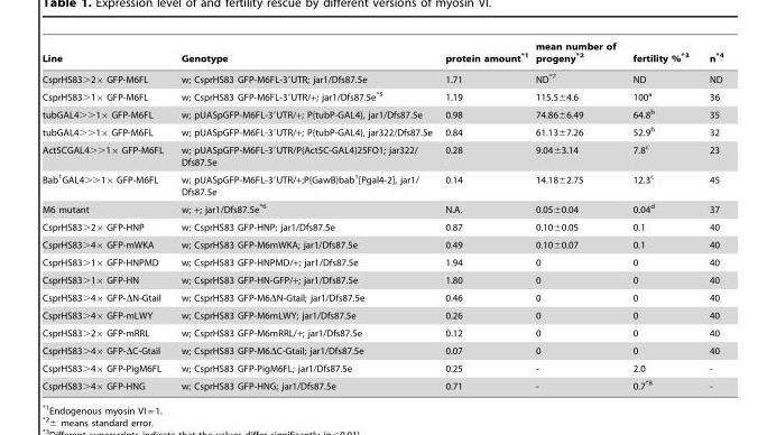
<table><thead><tr><td>Line</td><td>Genotype</td><td>protein amount*1</td><td>mean number of progeny*2</td><td>fertility %*3</td><td>n*4</td></tr></thead><tbody><tr><td>CsprHS83&gt;2× GFP-M6FL</td><td>w; CsprHS83 GFP-M6FL-3′UTR; jar1/Dfs87.5e</td><td>1.71</td><td>ND*7</td><td>ND</td><td>ND</td></tr><tr><td>CsprHS83&gt;1× GFP-M6FL</td><td>w; CsprHS83 GFP-M6FL-3′UTR/+; jar1/Dfs87.5e*5</td><td>1.19</td><td>115.5±4.6</td><td>100<sup>a</sup></td><td>36</td></tr><tr><td>tubGAL4&gt;&gt;1× GFP-M6FL</td><td>w; pUASpGFP-M6FL-3′UTR/+; P{tubP-GAL4}, jar1/Dfs87.5e</td><td>0.98</td><td>74.86±6.49</td><td>64.8<sup>b</sup></td><td>35</td></tr><tr><td>tubGAL4&gt;&gt;1× GFP-M6FL</td><td>w; pUASpGFP-M6FL-3′UTR/+; P{tubP-GAL4}, jar322/Dfs87.5e</td><td>0.84</td><td>61.13±7.26</td><td>52.9<sup>b</sup></td><td>32</td></tr><tr><td>Act5CGAL4&gt;&gt;1× GFP-M6FL</td><td>w; pUASpGFP-M6FL-3′UTR/P{Act5C-GAL4}25FO1; jar322/ Dfs87.5e</td><td>0.28</td><td>9.04±3.14</td><td>7.8<sup>c</sup></td><td>23</td></tr><tr><td>Bab<sup>1</sup>GAL4&gt;&gt;1× GFP-M6FL</td><td>w; pUASpGFP-M6FL-3′UTR/+;P{GawB}bab<sup>1</sup>[Pgal4-2], jar1/ Dfs87.5e</td><td>0.14</td><td>14.18±2.75</td><td>12.3<sup>c</sup></td><td>45</td></tr><tr><td>M6 mutant</td><td>w; +; jar1/Dfs87.5e*6</td><td>N.A.</td><td>0.05±0.04</td><td>0.04<sup>d</sup></td><td>37</td></tr><tr><td>CsprHS83&gt;2× GFP-HNP</td><td>w; CsprHS83 GFP-HNP; jar1/Dfs87.5e</td><td>0.87</td><td>0.10±0.05</td><td>0.1</td><td>40</td></tr><tr><td>CsprHS83&gt;4× GFP-mWKA</td><td>w; CsprHS83 GFP-M6mWKA; jar1/Dfs87.5e</td><td>0.49</td><td>0.10±0.07</td><td>0.1</td><td>40</td></tr><tr><td>CsprHS83&gt;1× GFP-HNPMD</td><td>w; CsprHS83 GFP-HNPMD/+; jar1/Dfs87.5e</td><td>1.94</td><td>0</td><td>0</td><td>40</td></tr><tr><td>CsprHS83&gt;1× GFP-HN</td><td>w; CsprHS83 GFP-HN-GFP/+; jar1/Dfs87.5e</td><td>1.80</td><td>0</td><td>0</td><td>40</td></tr><tr><td>CsprHS83&gt;4× GFP-ΔN-Gtail</td><td>w; CsprHS83 GFP-M6ΔN-Gtail; jar1/Dfs87.5e</td><td>0.46</td><td>0</td><td>0</td><td>40</td></tr><tr><td>CsprHS83&gt;4× GFP-mLWY</td><td>w; CsprHS83 GFP-M6mLWY; jar1/Dfs87.5e</td><td>0.26</td><td>0</td><td>0</td><td>40</td></tr><tr><td>CsprHS83&gt;2× GFP-mRRL</td><td>w; CsprHS83 GFP-M6mRRL/+; jar1/Dfs87.5e</td><td>0.12</td><td>0</td><td>0</td><td>40</td></tr><tr><td>CsprHS83&gt;4× GFP-ΔC-Gtail</td><td>w; CsprHS83 GFP-M6ΔC-Gtail; jar1/Dfs87.5e</td><td>0.07</td><td>0</td><td>0</td><td>40</td></tr><tr><td>CsprHS83&gt;4× GFP-PigM6FL</td><td>w; CsprHS83 GFP-PigM6FL; jar1/Dfs87.5e</td><td>0.25</td><td>-</td><td>2.0</td><td>-</td></tr><tr><td>CsprHS83&gt;4× GFP-HNG</td><td>w; CsprHS83 GFP-HNG; jar1/Dfs87.5e</td><td>0.71</td><td>-</td><td>0.7*8</td><td>-</td></tr></tbody></table>